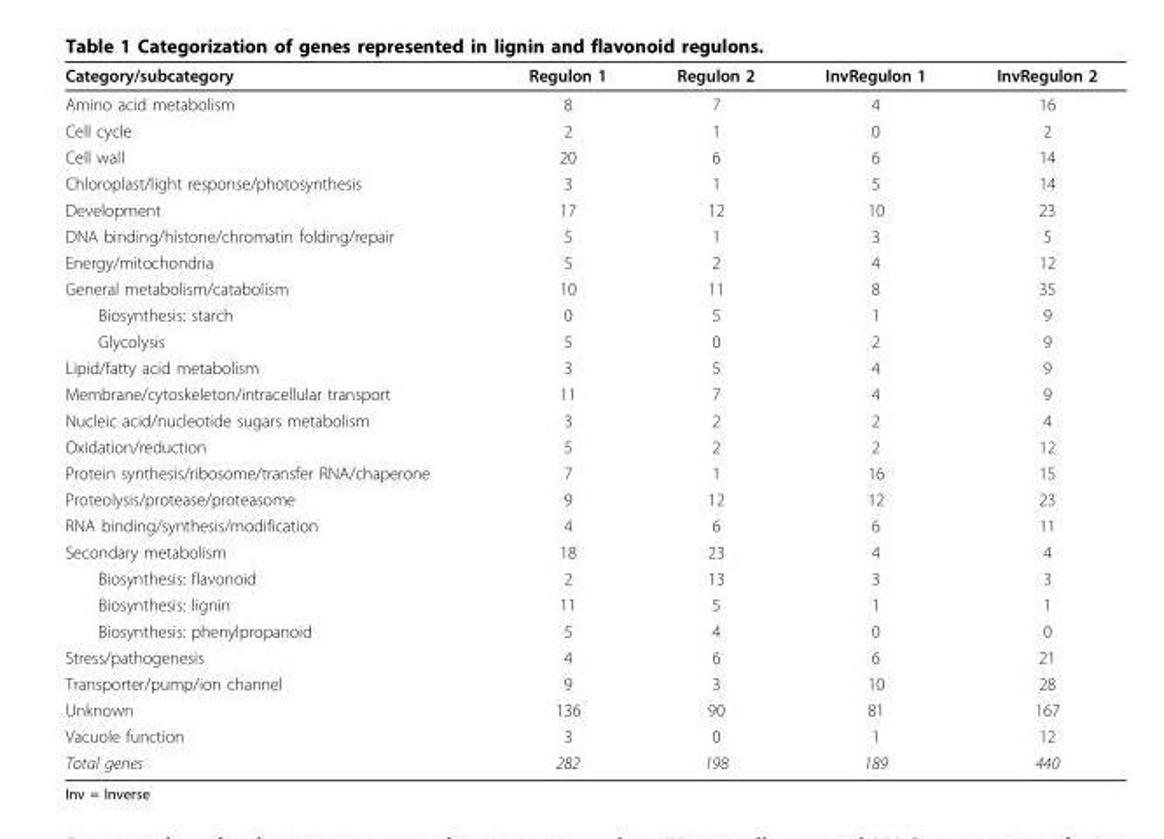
<table><thead><tr><td>Category/subcategory</td><td>Regulon 1</td><td>Regulon 2</td><td>InvRegulon 1</td><td>InvRegulon 2</td></tr></thead><tbody><tr><td>Amino acid metabolism</td><td>8</td><td>7</td><td>4</td><td>16</td></tr><tr><td>Cell cycle</td><td>2</td><td>1</td><td>0</td><td>2</td></tr><tr><td>Cell wall</td><td>20</td><td>6</td><td>6</td><td>14</td></tr><tr><td>Chloroplast/light response/photosynthesis</td><td>3</td><td>1</td><td>5</td><td>14</td></tr><tr><td>Development</td><td>17</td><td>12</td><td>10</td><td>23</td></tr><tr><td>DNA binding/histone/chromatin folding/repair</td><td>5</td><td>1</td><td>3</td><td>5</td></tr><tr><td>Energy/mitochondria</td><td>5</td><td>2</td><td>4</td><td>12</td></tr><tr><td>General metabolism/catabolism</td><td>10</td><td>11</td><td>8</td><td>35</td></tr><tr><td>Biosynthesis: starch</td><td>0</td><td>5</td><td>1</td><td>9</td></tr><tr><td>Glycolysis</td><td>5</td><td>0</td><td>2</td><td>9</td></tr><tr><td>Lipid/fatty acid metabolism</td><td>3</td><td>5</td><td>4</td><td>9</td></tr><tr><td>Membrane/cytoskeleton/intracellular transport</td><td>11</td><td>7</td><td>4</td><td>9</td></tr><tr><td>Nucleic acid/nucleotide sugars metabolism</td><td>3</td><td>2</td><td>2</td><td>4</td></tr><tr><td>Oxidation/reduction</td><td>5</td><td>2</td><td>2</td><td>12</td></tr><tr><td>Protein synthesis/ribosome/transfer RNA/chaperone</td><td>7</td><td>1</td><td>16</td><td>15</td></tr><tr><td>Proteolysis/protease/proteasome</td><td>9</td><td>12</td><td>12</td><td>23</td></tr><tr><td>RNA binding/synthesis/modification</td><td>4</td><td>6</td><td>6</td><td>11</td></tr><tr><td>Secondary metabolism</td><td>18</td><td>23</td><td>4</td><td>4</td></tr><tr><td>Biosynthesis: flavonoid</td><td>2</td><td>13</td><td>3</td><td>3</td></tr><tr><td>Biosynthesis: lignin</td><td>11</td><td>5</td><td>1</td><td>1</td></tr><tr><td>Biosynthesis: phenylpropanoid</td><td>5</td><td>4</td><td>0</td><td>0</td></tr><tr><td>Stress/pathogenesis</td><td>4</td><td>6</td><td>6</td><td>21</td></tr><tr><td>Transporter/pump/ion channel</td><td>9</td><td>3</td><td>10</td><td>28</td></tr><tr><td>Unknown</td><td>136</td><td>90</td><td>81</td><td>167</td></tr><tr><td>Vacuole function</td><td>3</td><td>0</td><td>1</td><td>12</td></tr><tr><td>Total genes</td><td>282</td><td>198</td><td>189</td><td>440</td></tr></tbody></table>